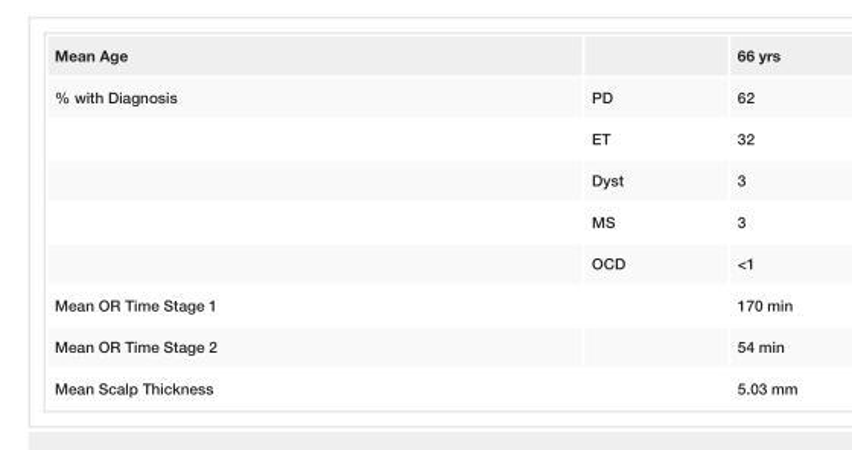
<table><tbody><tr><td>Mean Age</td><td></td><td>66 yrs</td></tr><tr><td rowspan="5">% with Diagnosis</td><td>PD</td><td>62</td></tr><tr><td>ET</td><td>32</td></tr><tr><td>Dyst</td><td>3</td></tr><tr><td>MS</td><td>3</td></tr><tr><td>OCD</td><td>&lt;1</td></tr><tr><td>Mean OR Time Stage 1</td><td></td><td>170 min</td></tr><tr><td>Mean OR Time Stage 2</td><td></td><td>54 min</td></tr><tr><td>Mean Scalp Thickness</td><td></td><td>5.03 mm</td></tr></tbody></table>